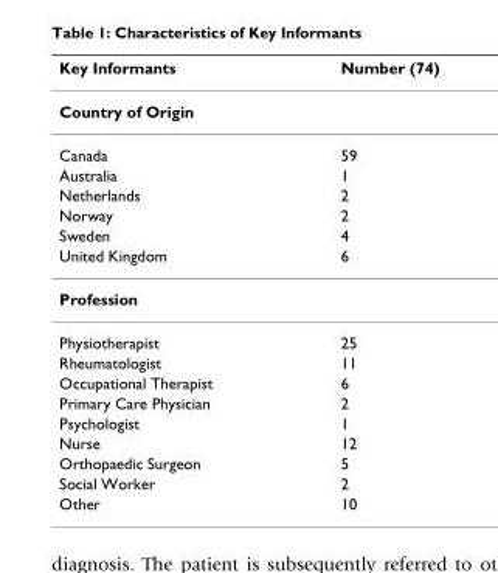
<table><thead><tr><td>Key Informants</td><td>Number (74)</td></tr></thead><tbody><tr><td colspan="2">Country of Origin</td></tr><tr><td>Canada</td><td>59</td></tr><tr><td>Australia</td><td>1</td></tr><tr><td>Netherlands</td><td>2</td></tr><tr><td>Norway</td><td>2</td></tr><tr><td>Sweden</td><td>4</td></tr><tr><td>United Kingdom</td><td>6</td></tr><tr><td colspan="2">Profession</td></tr><tr><td>Physiotherapist</td><td>25</td></tr><tr><td>Rheumatologist</td><td>11</td></tr><tr><td>Occupational Therapist</td><td>6</td></tr><tr><td>Primary Care Physician</td><td>2</td></tr><tr><td>Psychologist</td><td>1</td></tr><tr><td>Nurse</td><td>12</td></tr><tr><td>Orthopaedic Surgeon</td><td>5</td></tr><tr><td>Social Worker</td><td>2</td></tr><tr><td>Other</td><td>10</td></tr></tbody></table>